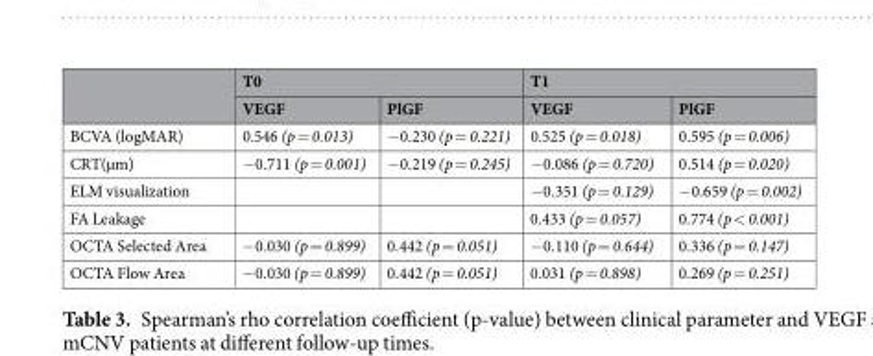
<table><thead><tr><td rowspan="2"></td><td colspan="2">T0</td><td colspan="2">T1</td></tr><tr><td>VEGF</td><td>PlGF</td><td>VEGF</td><td>PlGF</td></tr></thead><tbody><tr><td>BCVA (logMAR)</td><td>0.546 (p = 0.013)</td><td>−0.230 (p = 0.221)</td><td>0.525 (p = 0.018)</td><td>0.595 (p = 0.006)</td></tr><tr><td>CRT(µm)</td><td>−0.711 (p = 0.001)</td><td>−0.219 (p = 0.245)</td><td>−0.086 (p = 0.720)</td><td>0.514 (p = 0.020)</td></tr><tr><td>ELM visualization</td><td></td><td></td><td>−0.351 (p = 0.129)</td><td>−0.659 (p = 0.002)</td></tr><tr><td>FA Leakage</td><td></td><td></td><td>0.433 (p = 0.057)</td><td>0.774 (p &lt; 0.001)</td></tr><tr><td>OCTA Selected Area</td><td>−0.030 (p = 0.899)</td><td>0.442 (p = 0.051)</td><td>−0.110 (p = 0.644)</td><td>0.336 (p = 0.147)</td></tr><tr><td>OCTA Flow Area</td><td>−0.030 (p = 0.899)</td><td>0.442 (p = 0.051)</td><td>0.031 (p = 0.898)</td><td>0.269 (p = 0.251)</td></tr></tbody></table>